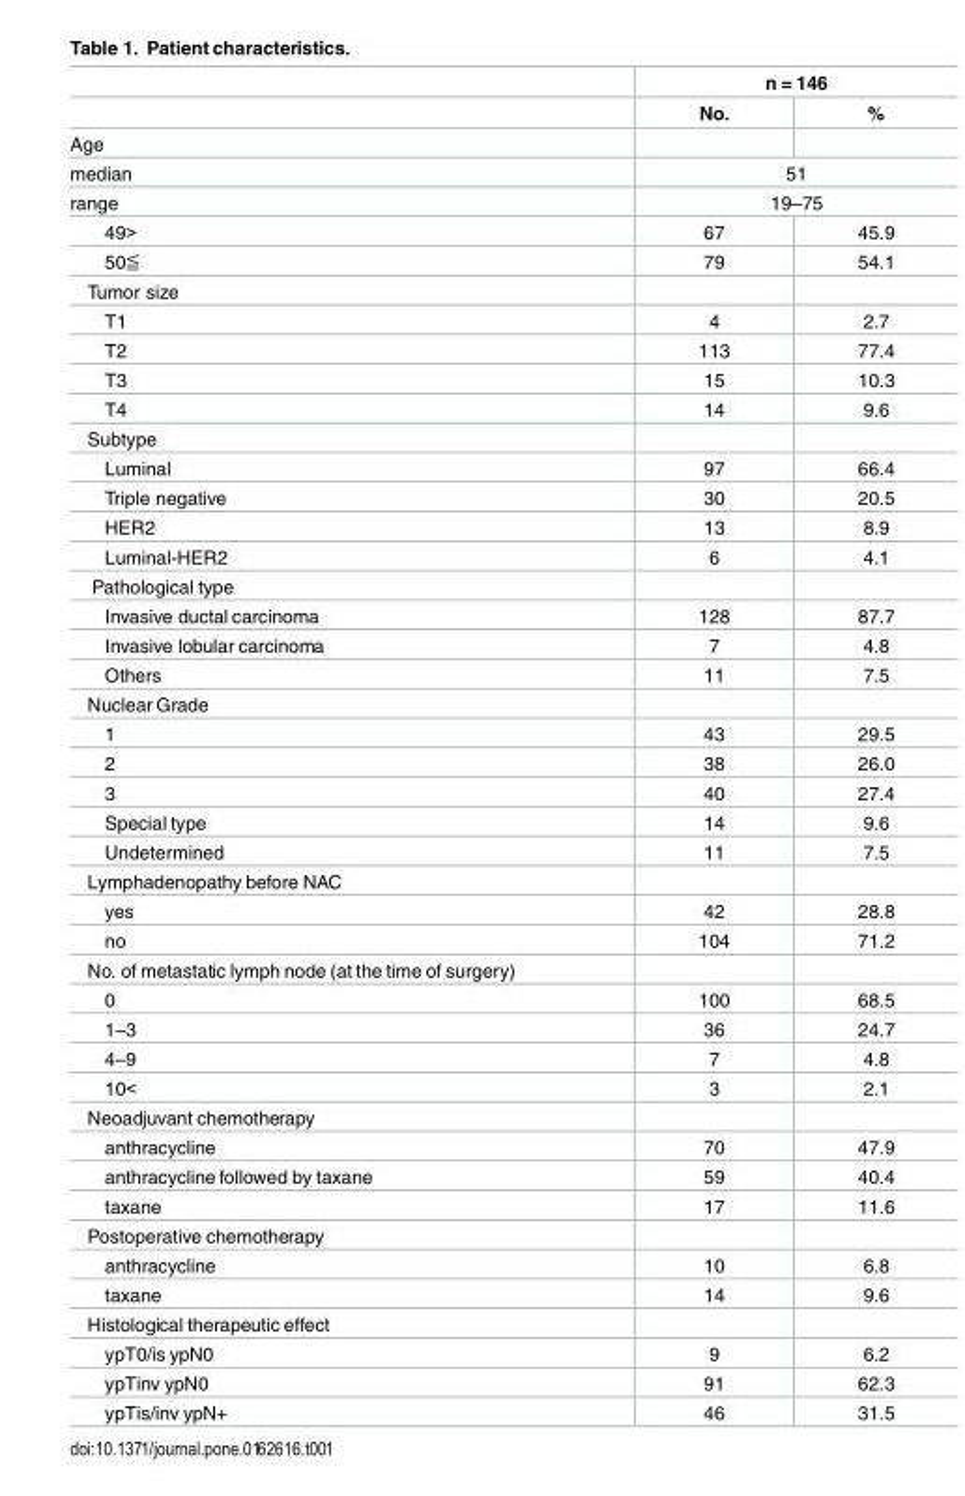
<table><thead><tr><td rowspan="2"></td><td colspan="2">n = 146</td></tr><tr><td>No.</td><td>%</td></tr></thead><tbody><tr><td colspan="3">Age</td></tr><tr><td>median</td><td colspan="2">51</td></tr><tr><td>range</td><td colspan="2">19–75</td></tr><tr><td>49&gt;</td><td>67</td><td>45.9</td></tr><tr><td>50≦</td><td>79</td><td>54.1</td></tr><tr><td colspan="3">Tumor size</td></tr><tr><td>T1</td><td>4</td><td>2.7</td></tr><tr><td>T2</td><td>113</td><td>77.4</td></tr><tr><td>T3</td><td>15</td><td>10.3</td></tr><tr><td>T4</td><td>14</td><td>9.6</td></tr><tr><td colspan="3">Subtype</td></tr><tr><td>Luminal</td><td>97</td><td>66.4</td></tr><tr><td>Triple negative</td><td>30</td><td>20.5</td></tr><tr><td>HER2</td><td>13</td><td>8.9</td></tr><tr><td>Luminal-HER2</td><td>6</td><td>4.1</td></tr><tr><td colspan="3">Pathological type</td></tr><tr><td>Invasive ductal carcinoma</td><td>128</td><td>87.7</td></tr><tr><td>Invasive lobular carcinoma</td><td>7</td><td>4.8</td></tr><tr><td>Others</td><td>11</td><td>7.5</td></tr><tr><td colspan="3">Nuclear Grade</td></tr><tr><td>1</td><td>43</td><td>29.5</td></tr><tr><td>2</td><td>38</td><td>26.0</td></tr><tr><td>3</td><td>40</td><td>27.4</td></tr><tr><td>Special type</td><td>14</td><td>9.6</td></tr><tr><td>Undetermined</td><td>11</td><td>7.5</td></tr><tr><td colspan="3">Lymphadenopathy before NAC</td></tr><tr><td>yes</td><td>42</td><td>28.8</td></tr><tr><td>no</td><td>104</td><td>71.2</td></tr><tr><td colspan="3">No. of metastatic lymph node (at the time of surgery)</td></tr><tr><td>0</td><td>100</td><td>68.5</td></tr><tr><td>1–3</td><td>36</td><td>24.7</td></tr><tr><td>4–9</td><td>7</td><td>4.8</td></tr><tr><td>10&lt;</td><td>3</td><td>2.1</td></tr><tr><td colspan="3">Neoadjuvant chemotherapy</td></tr><tr><td>anthracycline</td><td>70</td><td>47.9</td></tr><tr><td>anthracycline followed by taxane</td><td>59</td><td>40.4</td></tr><tr><td>taxane</td><td>17</td><td>11.6</td></tr><tr><td colspan="3">Postoperative chemotherapy</td></tr><tr><td>anthracycline</td><td>10</td><td>6.8</td></tr><tr><td>taxane</td><td>14</td><td>9.6</td></tr><tr><td colspan="3">Histological therapeutic effect</td></tr><tr><td>ypT0/is ypN0</td><td>9</td><td>6.2</td></tr><tr><td>ypTinv ypN0</td><td>91</td><td>62.3</td></tr><tr><td>ypTis/inv ypN+</td><td>46</td><td>31.5</td></tr></tbody></table>